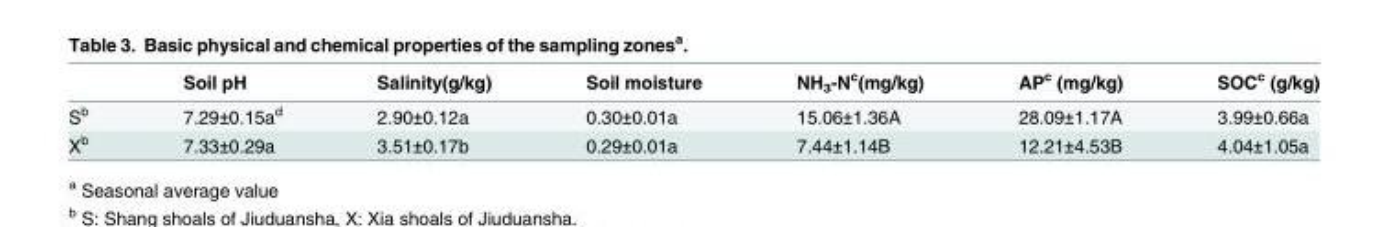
<table><thead><tr><td></td><td>Soil pH</td><td>Salinity(g/kg)</td><td>Soil moisture</td><td>NH<sub>3</sub>-N<sup>c</sup>(mg/kg)</td><td>AP<sup>c</sup> (mg/kg)</td><td>SOC<sup>c</sup> (g/kg)</td></tr></thead><tbody><tr><td>S<sup>b</sup></td><td>7.29±0.15a<sup>d</sup></td><td>2.90±0.12a</td><td>0.30±0.01a</td><td>15.06±1.36A</td><td>28.09±1.17A</td><td>3.99±0.66a</td></tr><tr><td>X<sup>b</sup></td><td>7.33±0.29a</td><td>3.51±0.17b</td><td>0.29±0.01a</td><td>7.44±1.14B</td><td>12.21±4.53B</td><td>4.04±1.05a</td></tr></tbody></table>